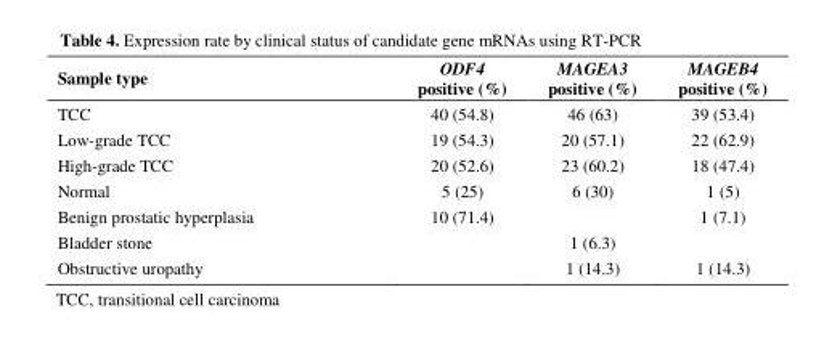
<table><thead><tr><td>Sample type</td><td>ODF4 positive (%)</td><td>MAGEA3 positive (%)</td><td>MAGEB4 positive (%)</td></tr></thead><tbody><tr><td>TCC</td><td>40 (54.8)</td><td>46 (63)</td><td>39 (53.4)</td></tr><tr><td>Low-grade TCC</td><td>19 (54.3)</td><td>20 (57.1)</td><td>22 (62.9)</td></tr><tr><td>High-grade TCC</td><td>20 (52.6)</td><td>23 (60.2)</td><td>18 (47.4)</td></tr><tr><td>Normal</td><td>5 (25)</td><td>6 (30)</td><td>1 (5)</td></tr><tr><td>Benign prostatic hyperplasia</td><td>10 (71.4)</td><td></td><td>1 (7.1)</td></tr><tr><td>Bladder stone</td><td></td><td>1 (6.3)</td><td></td></tr><tr><td>Obstructive uropathy</td><td></td><td>1 (14.3)</td><td>1 (14.3)</td></tr></tbody></table>